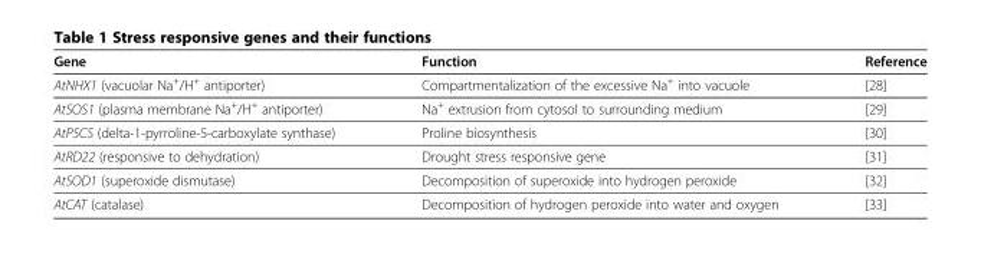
<table><thead><tr><td>Gene</td><td>Function</td><td>Reference</td></tr></thead><tbody><tr><td>AtNHX1 (vacuolar Na<sup>+</sup>/H<sup>+</sup> antiporter)</td><td>Compartmentalization of the excessive Na<sup>+</sup> into vacuole</td><td>[28]</td></tr><tr><td>AtSOS1 (plasma membrane Na<sup>+</sup>/H<sup>+</sup> antiporter)</td><td>Na<sup>+</sup> extrusion from cytosol to surrounding medium</td><td>[29]</td></tr><tr><td>AtP5CS (delta-1-pyrroline-5-carboxylate synthase)</td><td>Proline biosynthesis</td><td>[30]</td></tr><tr><td>AtRD22 (responsive to dehydration)</td><td>Drought stress responsive gene</td><td>[31]</td></tr><tr><td>AtSOD1 (superoxide dismutase)</td><td>Decomposition of superoxide into hydrogen peroxide</td><td>[32]</td></tr><tr><td>AtCAT (catalase)</td><td>Decomposition of hydrogen peroxide into water and oxygen</td><td>[33]</td></tr></tbody></table>